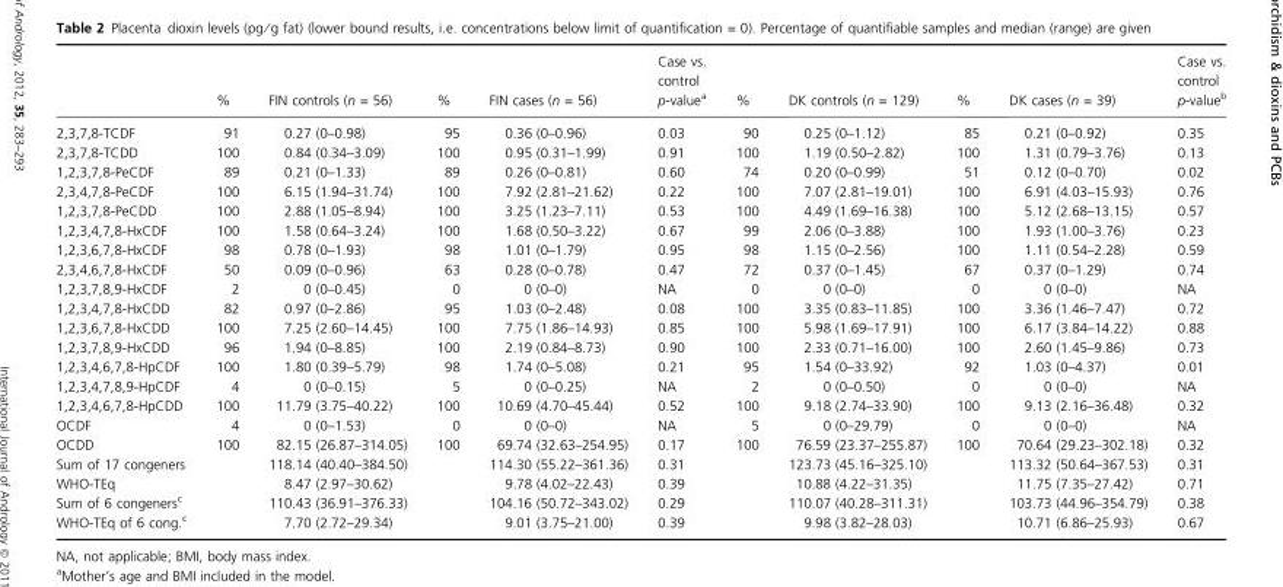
<table><thead><tr><td></td><td>%</td><td>FIN controls (n = 56)</td><td>%</td><td>FIN cases (n = 56)</td><td>Case vs. control p-value<sup>a</sup></td><td>%</td><td>DK controls (n = 129)</td><td>%</td><td>DK cases (n = 39)</td><td>Case vs. control p-value<sup>b</sup></td></tr></thead><tbody><tr><td>2,3,7,8-TCDF</td><td>91</td><td>0.27 (0–0.98)</td><td>95</td><td>0.36 (0–0.96)</td><td>0.03</td><td>90</td><td>0.25 (0–1.12)</td><td>85</td><td>0.21 (0–0.92)</td><td>0.35</td></tr><tr><td>2,3,7,8-TCDD</td><td>100</td><td>0.84 (0.34–3.09)</td><td>100</td><td>0.95 (0.31–1.99)</td><td>0.91</td><td>100</td><td>1.19 (0.50–2.82)</td><td>100</td><td>1.31 (0.79–3.76)</td><td>0.13</td></tr><tr><td>1,2,3,7,8-PeCDF</td><td>89</td><td>0.21 (0–1.33)</td><td>89</td><td>0.26 (0–0.81)</td><td>0.60</td><td>74</td><td>0.20 (0–0.99)</td><td>51</td><td>0.12 (0–0.70)</td><td>0.02</td></tr><tr><td>2,3,4,7,8-PeCDF</td><td>100</td><td>6.15 (1.94–31.74)</td><td>100</td><td>7.92 (2.81–21.62)</td><td>0.22</td><td>100</td><td>7.07 (2.81–19.01)</td><td>100</td><td>6.91 (4.03–15.93)</td><td>0.76</td></tr><tr><td>1,2,3,7,8-PeCDD</td><td>100</td><td>2.88 (1.05–8.94)</td><td>100</td><td>3.25 (1.23–7.11)</td><td>0.53</td><td>100</td><td>4.49 (1.69–16.38)</td><td>100</td><td>5.12 (2.68–13.15)</td><td>0.57</td></tr><tr><td>1,2,3,4,7,8-HxCDF</td><td>100</td><td>1.58 (0.64–3.24)</td><td>100</td><td>1.68 (0.50–3.22)</td><td>0.67</td><td>99</td><td>2.06 (0–3.88)</td><td>100</td><td>1.93 (1.00–3.76)</td><td>0.23</td></tr><tr><td>1,2,3,6,7,8-HxCDF</td><td>98</td><td>0.78 (0–1.93)</td><td>98</td><td>1.01 (0–1.79)</td><td>0.95</td><td>98</td><td>1.15 (0–2.56)</td><td>100</td><td>1.11 (0.54–2.28)</td><td>0.59</td></tr><tr><td>2,3,4,6,7,8-HxCDF</td><td>50</td><td>0.09 (0–0.96)</td><td>63</td><td>0.28 (0–0.78)</td><td>0.47</td><td>72</td><td>0.37 (0–1.45)</td><td>67</td><td>0.37 (0–1.29)</td><td>0.74</td></tr><tr><td>1,2,3,7,8,9-HxCDF</td><td>2</td><td>0 (0–0.45)</td><td>0</td><td>0 (0–0)</td><td>NA</td><td>0</td><td>0 (0–0)</td><td>0</td><td>0 (0–0)</td><td>NA</td></tr><tr><td>1,2,3,4,7,8-HxCDD</td><td>82</td><td>0.97 (0–2.86)</td><td>95</td><td>1.03 (0–2.48)</td><td>0.08</td><td>100</td><td>3.35 (0.83–11.85)</td><td>100</td><td>3.36 (1.46–7.47)</td><td>0.72</td></tr><tr><td>1,2,3,6,7,8-HxCDD</td><td>100</td><td>7.25 (2.60–14.45)</td><td>100</td><td>7.75 (1.86–14.93)</td><td>0.85</td><td>100</td><td>5.98 (1.69–17.91)</td><td>100</td><td>6.17 (3.84–14.22)</td><td>0.88</td></tr><tr><td>1,2,3,7,8,9-HxCDD</td><td>96</td><td>1.94 (0–8.85)</td><td>100</td><td>2.19 (0.84–8.73)</td><td>0.90</td><td>100</td><td>2.33 (0.71–16.00)</td><td>100</td><td>2.60 (1.45–9.86)</td><td>0.73</td></tr><tr><td>1,2,3,4,6,7,8-HpCDF</td><td>100</td><td>1.80 (0.39–5.79)</td><td>98</td><td>1.74 (0–5.08)</td><td>0.21</td><td>95</td><td>1.54 (0–33.92)</td><td>92</td><td>1.03 (0–4.37)</td><td>0.01</td></tr><tr><td>1,2,3,4,7,8,9-HpCDF</td><td>4</td><td>0 (0–0.15)</td><td>5</td><td>0 (0–0.25)</td><td>NA</td><td>2</td><td>0 (0–0.50)</td><td>0</td><td>0 (0–0)</td><td>NA</td></tr><tr><td>1,2,3,4,6,7,8-HpCDD</td><td>100</td><td>11.79 (3.75–40.22)</td><td>100</td><td>10.69 (4.70–45.44)</td><td>0.52</td><td>100</td><td>9.18 (2.74–33.90)</td><td>100</td><td>9.13 (2.16–36.48)</td><td>0.32</td></tr><tr><td>OCDF</td><td>4</td><td>0 (0–1.53)</td><td>0</td><td>0 (0–0)</td><td>NA</td><td>5</td><td>0 (0–29.79)</td><td>0</td><td>0 (0–0)</td><td>NA</td></tr><tr><td>OCDD</td><td>100</td><td>82.15 (26.87–314.05)</td><td>100</td><td>69.74 (32.63–254.95)</td><td>0.17</td><td>100</td><td>76.59 (23.37–255.87)</td><td>100</td><td>70.64 (29.23–302.18)</td><td>0.32</td></tr><tr><td>Sum of 17 congeners</td><td></td><td>118.14 (40.40–384.50)</td><td></td><td>114.30 (55.22–361.36)</td><td>0.31</td><td></td><td>123.73 (45.16–325.10)</td><td></td><td>113.32 (50.64–367.53)</td><td>0.31</td></tr><tr><td>WHO-TEq</td><td></td><td>8.47 (2.97–30.62)</td><td></td><td>9.78 (4.02–22.43)</td><td>0.39</td><td></td><td>10.88 (4.22–31.35)</td><td></td><td>11.75 (7.35–27.42)</td><td>0.71</td></tr><tr><td>Sum of 6 congeners<sup>c</sup></td><td></td><td>110.43 (36.91–376.33)</td><td></td><td>104.16 (50.72–343.02)</td><td>0.29</td><td></td><td>110.07 (40.28–311.31)</td><td></td><td>103.73 (44.96–354.79)</td><td>0.38</td></tr><tr><td>WHO-TEq of 6 cong.<sup>c</sup></td><td></td><td>7.70 (2.72–29.34)</td><td></td><td>9.01 (3.75–21.00)</td><td>0.39</td><td></td><td>9.98 (3.82–28.03)</td><td></td><td>10.71 (6.86–25.93)</td><td>0.67</td></tr></tbody></table>